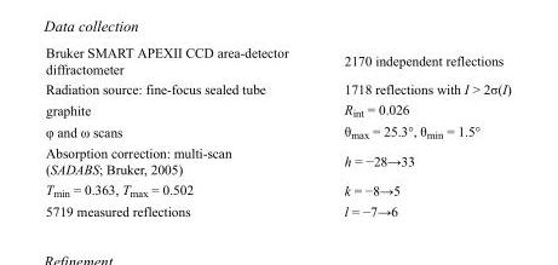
<table><tbody><tr><td>Bruker SMART APEXII CCD area-detector diffractometer</td><td>2170 independent reflections</td></tr><tr><td>Radiation source: fine-focus sealed tube</td><td>1718 reflections with I &gt; 2σ(I)</td></tr><tr><td>graphite</td><td>R<sub>int</sub> = 0.026</td></tr><tr><td>φ and ω scans</td><td>θ<sub>max</sub> = 25.3°, θ<sub>min</sub> = 1.5°</td></tr><tr><td>Absorption correction: multi-scan (SADABS; Bruker, 2005)</td><td>h = −28→33</td></tr><tr><td>T<sub>min</sub> = 0.363, T<sub>max</sub> = 0.502</td><td>k = −8→5</td></tr><tr><td>5719 measured reflections</td><td>l = −7→6</td></tr></tbody></table>